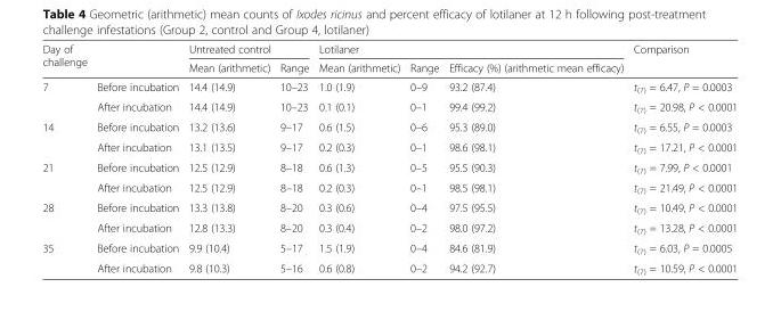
<table><thead><tr><td rowspan="2">Day of challenge</td><td rowspan="2"></td><td colspan="2">Untreated control</td><td colspan="3">Lotilaner</td><td rowspan="2">Comparison</td></tr><tr><td>Mean (arithmetic)</td><td>Range</td><td>Mean (arithmetic)</td><td>Range</td><td>Efficacy (%) (arithmetic mean efficacy)</td></tr></thead><tbody><tr><td rowspan="2">7</td><td>Before incubation</td><td>14.4 (14.9)</td><td>10–23</td><td>1.0 (1.9)</td><td>0–9</td><td>93.2 (87.4)</td><td>t<sub>(7)</sub> = 6.47, P = 0.0003</td></tr><tr><td>After incubation</td><td>14.4 (14.9)</td><td>10–23</td><td>0.1 (0.1)</td><td>0–1</td><td>99.4 (99.2)</td><td>t<sub>(7)</sub> = 20.98, P &lt; 0.0001</td></tr><tr><td rowspan="2">14</td><td>Before incubation</td><td>13.2 (13.6)</td><td>9–17</td><td>0.6 (1.5)</td><td>0–6</td><td>95.3 (89.0)</td><td>t<sub>(7)</sub> = 6.55, P = 0.0003</td></tr><tr><td>After incubation</td><td>13.1 (13.5)</td><td>9–17</td><td>0.2 (0.3)</td><td>0–1</td><td>98.6 (98.1)</td><td>t<sub>(7)</sub> = 17.21, P &lt; 0.0001</td></tr><tr><td rowspan="2">21</td><td>Before incubation</td><td>12.5 (12.9)</td><td>8–18</td><td>0.6 (1.3)</td><td>0–5</td><td>95.5 (90.3)</td><td>t<sub>(7)</sub> = 7.99, P &lt; 0.0001</td></tr><tr><td>After incubation</td><td>12.5 (12.9)</td><td>8–18</td><td>0.2 (0.3)</td><td>0–1</td><td>98.5 (98.1)</td><td>t<sub>(7)</sub> = 21.49, P &lt; 0.0001</td></tr><tr><td rowspan="2">28</td><td>Before incubation</td><td>13.3 (13.8)</td><td>8–20</td><td>0.3 (0.6)</td><td>0–4</td><td>97.5 (95.5)</td><td>t<sub>(7)</sub> = 10.49, P &lt; 0.0001</td></tr><tr><td>After incubation</td><td>12.8 (13.3)</td><td>8–20</td><td>0.3 (0.4)</td><td>0–2</td><td>98.0 (97.2)</td><td>t<sub>(7)</sub> = 13.28, P &lt; 0.0001</td></tr><tr><td rowspan="2">35</td><td>Before incubation</td><td>9.9 (10.4)</td><td>5–17</td><td>1.5 (1.9)</td><td>0–4</td><td>84.6 (81.9)</td><td>t<sub>(7)</sub> = 6.03, P = 0.0005</td></tr><tr><td>After incubation</td><td>9.8 (10.3)</td><td>5–16</td><td>0.6 (0.8)</td><td>0–2</td><td>94.2 (92.7)</td><td>t<sub>(7)</sub> = 10.59, P &lt; 0.0001</td></tr></tbody></table>